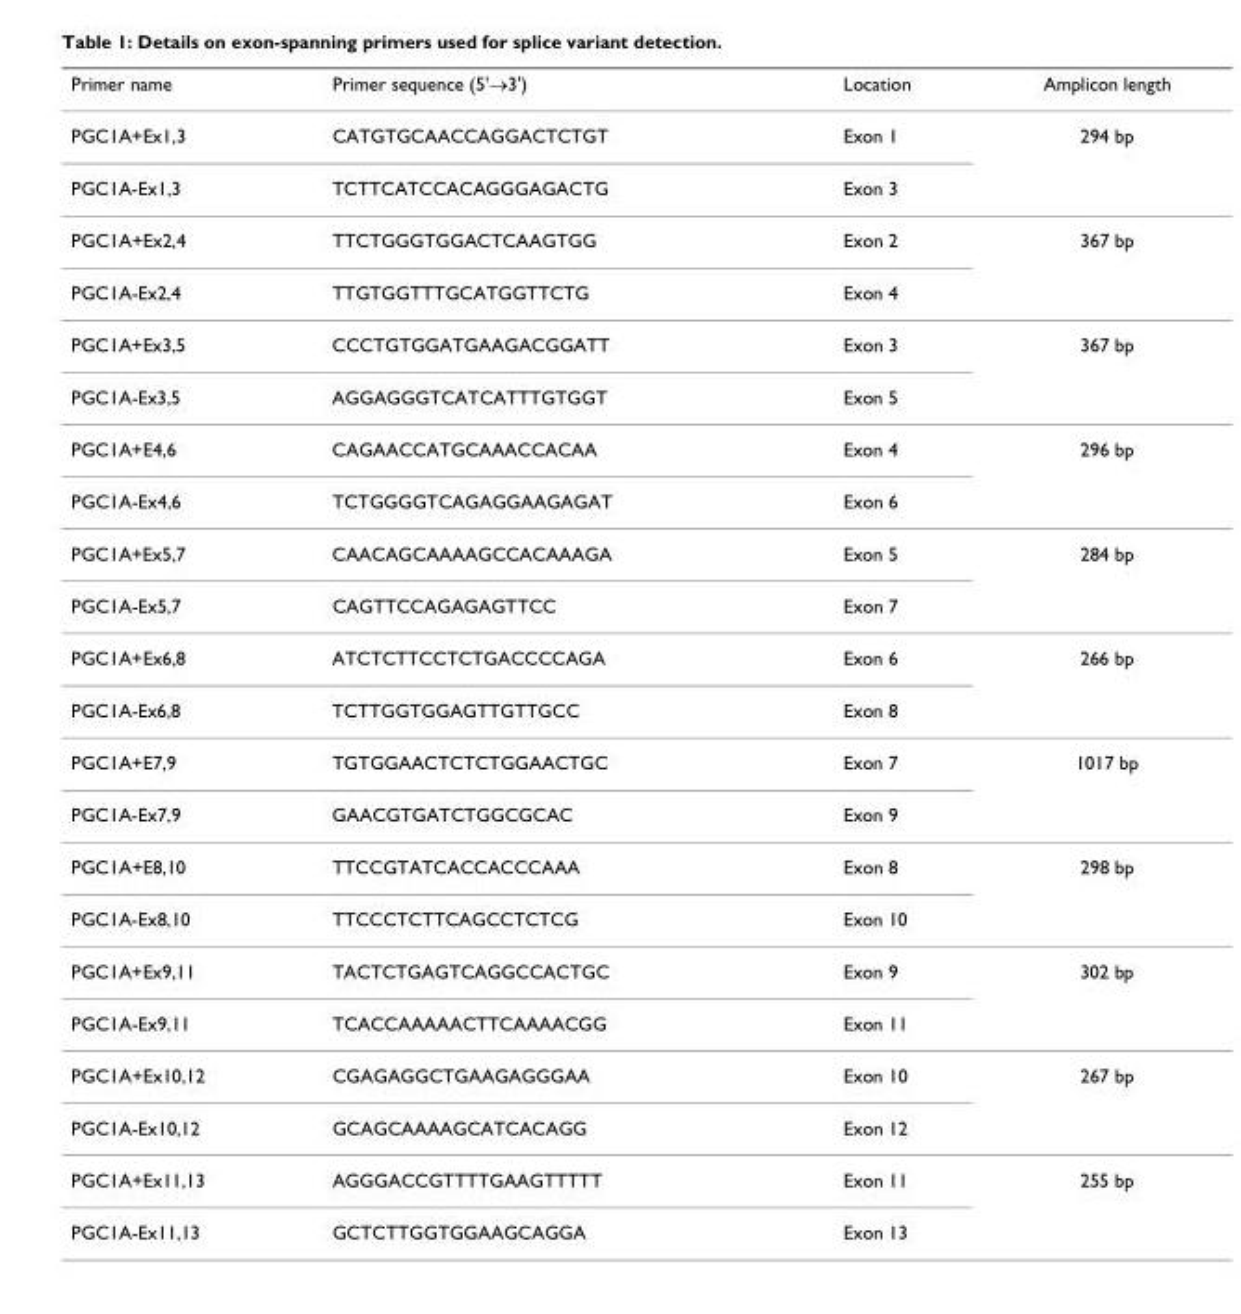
<table><thead><tr><td>Primer name</td><td>Primer sequence (5&#x27;→3&#x27;)</td><td>Location</td><td>Amplicon length</td></tr></thead><tbody><tr><td>PGC1A+Ex1,3</td><td>CATGTGCAACCAGGACTCTGT</td><td>Exon 1</td><td>294 bp</td></tr><tr><td>PGC1A-Ex1,3</td><td>TCTTCATCCACAGGGAGACTG</td><td>Exon 3</td><td></td></tr><tr><td>PGC1A+Ex2,4</td><td>TTCTGGGTGGACTCAAGTGG</td><td>Exon 2</td><td>367 bp</td></tr><tr><td>PGC1A-Ex2,4</td><td>TTGTGGTTTGCATGGTTCTG</td><td>Exon 4</td><td></td></tr><tr><td>PGC1A+Ex3,5</td><td>CCCTGTGGATGAAGACGGATT</td><td>Exon 3</td><td>367 bp</td></tr><tr><td>PGC1A-Ex3,5</td><td>AGGAGGGTCATCATTTGTGGT</td><td>Exon 5</td><td></td></tr><tr><td>PGC1A+E4,6</td><td>CAGAACCATGCAAACCACAA</td><td>Exon 4</td><td>296 bp</td></tr><tr><td>PGC1A-Ex4,6</td><td>TCTGGGGTCAGAGGAAGAGAT</td><td>Exon 6</td><td></td></tr><tr><td>PGC1A+Ex5,7</td><td>CAACAGCAAAAGCCACAAAGA</td><td>Exon 5</td><td>284 bp</td></tr><tr><td>PGC1A-Ex5,7</td><td>CAGTTCCAGAGAGTTCC</td><td>Exon 7</td><td></td></tr><tr><td>PGC1A+Ex6,8</td><td>ATCTCTTCCTCTGACCCCAGA</td><td>Exon 6</td><td>266 bp</td></tr><tr><td>PGC1A-Ex6,8</td><td>TCTTGGTGGAGTTGTTGCC</td><td>Exon 8</td><td></td></tr><tr><td>PGC1A+E7,9</td><td>TGTGGAACTCTCTGGAACTGC</td><td>Exon 7</td><td>1017 bp</td></tr><tr><td>PGC1A-Ex7,9</td><td>GAACGTGATCTGGCGCAC</td><td>Exon 9</td><td></td></tr><tr><td>PGC1A+E8,10</td><td>TTCCGTATCACCACCCAAA</td><td>Exon 8</td><td>298 bp</td></tr><tr><td>PGC1A-Ex8,10</td><td>TTCCCTCTTCAGCCTCTCG</td><td>Exon 10</td><td></td></tr><tr><td>PGC1A+Ex9,11</td><td>TACTCTGAGTCAGGCCACTGC</td><td>Exon 9</td><td>302 bp</td></tr><tr><td>PGC1A-Ex9,11</td><td>TCACCAAAAACTTCAAAACGG</td><td>Exon 11</td><td></td></tr><tr><td>PGC1A+Ex10,12</td><td>CGAGAGGCTGAAGAGGGAA</td><td>Exon 10</td><td>267 bp</td></tr><tr><td>PGC1A-Ex10,12</td><td>GCAGCAAAAGCATCACAGG</td><td>Exon 12</td><td></td></tr><tr><td>PGC1A+Ex11,13</td><td>AGGGACCGTTTTGAAGTTTTT</td><td>Exon 11</td><td>255 bp</td></tr><tr><td>PGC1A-Ex11,13</td><td>GCTCTTGGTGGAAGCAGGA</td><td>Exon 13</td><td></td></tr></tbody></table>